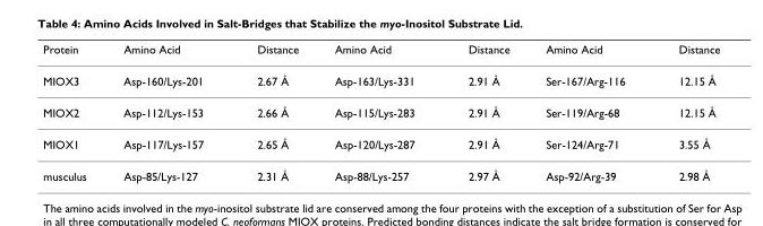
<table><thead><tr><td>Protein</td><td>Amino Acid</td><td>Distance</td><td>Amino Acid</td><td>Distance</td><td>Amino Acid</td><td>Distance</td></tr></thead><tbody><tr><td>MIOX3</td><td>Asp-160/Lys-201</td><td>2.67 Å</td><td>Asp-163/Lys-331</td><td>2.91 Å</td><td>Ser-167/Arg-116</td><td>12.15 Å</td></tr><tr><td>MIOX2</td><td>Asp-112/Lys-153</td><td>2.66 Å</td><td>Asp-115/Lys-283</td><td>2.91 Å</td><td>Ser-119/Arg-68</td><td>12.15 Å</td></tr><tr><td>MIOX1</td><td>Asp-117/Lys-157</td><td>2.65 Å</td><td>Asp-120/Lys-287</td><td>2.91 Å</td><td>Ser-124/Arg-71</td><td>3.55 Å</td></tr><tr><td>musculus</td><td>Asp-85/Lys-127</td><td>2.31 Å</td><td>Asp-88/Lys-257</td><td>2.97 Å</td><td>Asp-92/Arg-39</td><td>2.98 Å</td></tr></tbody></table>